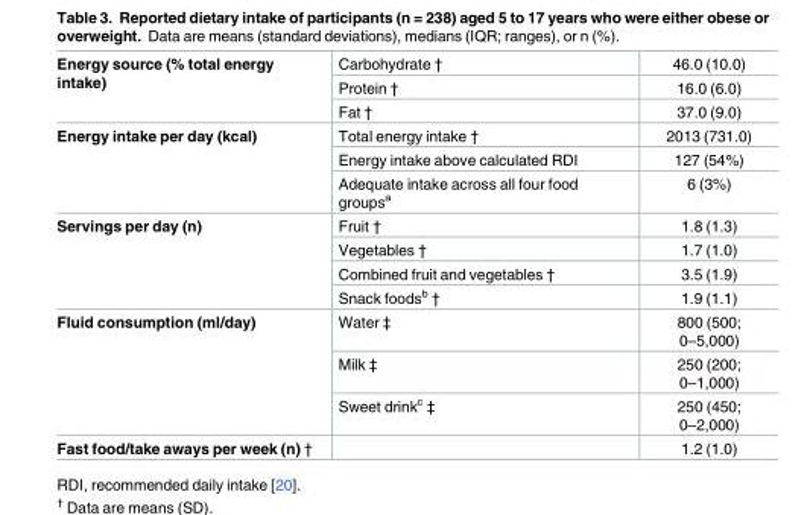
<table><tbody><tr><td rowspan="3">Energy source (% total energy intake)</td><td>Carbohydrate †</td><td>46.0 (10.0)</td></tr><tr><td>Protein †</td><td>16.0 (6.0)</td></tr><tr><td>Fat †</td><td>37.0 (9.0)</td></tr><tr><td rowspan="3">Energy intake per day (kcal)</td><td>Total energy intake †</td><td>2013 (731.0)</td></tr><tr><td>Energy intake above calculated RDI</td><td>127 (54%)</td></tr><tr><td>Adequate intake across all four food groups<sup>a</sup></td><td>6 (3%)</td></tr><tr><td rowspan="4">Servings per day (n)</td><td>Fruit †</td><td>1.8 (1.3)</td></tr><tr><td>Vegetables †</td><td>1.7 (1.0)</td></tr><tr><td>Combined fruit and vegetables †</td><td>3.5 (1.9)</td></tr><tr><td>Snack foods<sup>b</sup> †</td><td>1.9 (1.1)</td></tr><tr><td rowspan="3">Fluid consumption (ml/day)</td><td>Water ‡</td><td>800 (500; 0–5,000)</td></tr><tr><td>Milk ‡</td><td>250 (200; 0–1,000)</td></tr><tr><td>Sweet drink<sup>c</sup> ‡</td><td>250 (450; 0–2,000)</td></tr><tr><td>Fast food/take aways per week (n) †</td><td></td><td>1.2 (1.0)</td></tr></tbody></table>